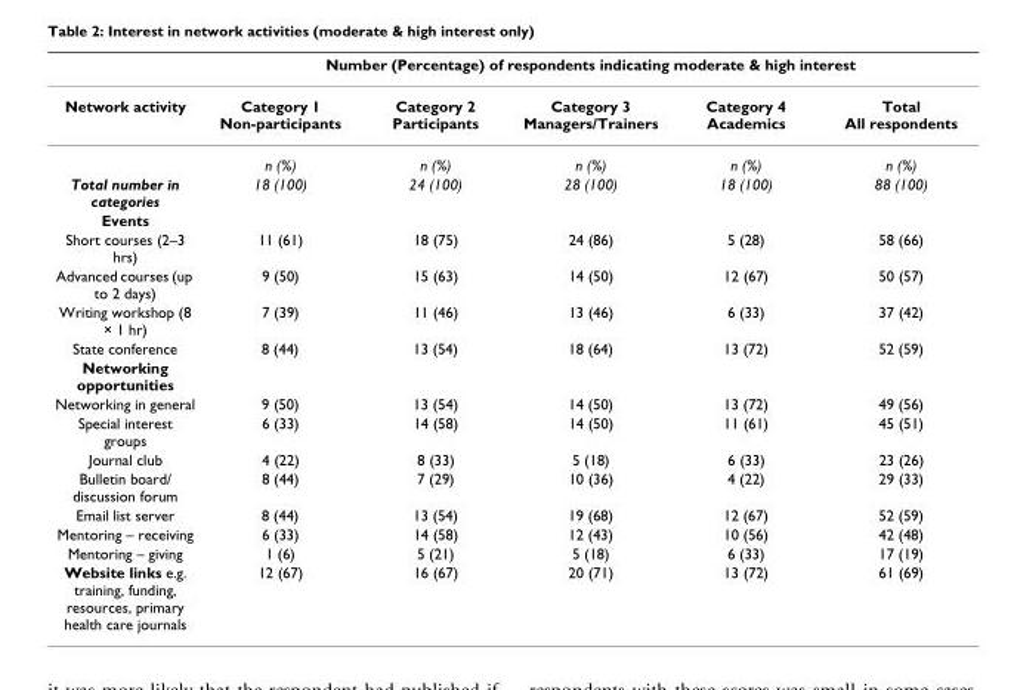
<table><thead><tr><td rowspan="2">Network activity</td><td colspan="5">Number (Percentage) of respondents indicating moderate &amp; high interest</td></tr><tr><td>Category 1 Non-participants</td><td>Category 2 Participants</td><td>Category 3 Managers/Trainers</td><td>Category 4 Academics</td><td>Total All respondents</td></tr></thead><tbody><tr><td></td><td>n (%)</td><td>n (%)</td><td>n (%)</td><td>n (%)</td><td>n (%)</td></tr><tr><td>Total number in categories</td><td>18 (100)</td><td>24 (100)</td><td>28 (100)</td><td>18 (100)</td><td>88 (100)</td></tr><tr><td colspan="6">Events</td></tr><tr><td>Short courses (2–3 hrs)</td><td>11 (61)</td><td>18 (75)</td><td>24 (86)</td><td>5 (28)</td><td>58 (66)</td></tr><tr><td>Advanced courses (up to 2 days)</td><td>9 (50)</td><td>15 (63)</td><td>14 (50)</td><td>12 (67)</td><td>50 (57)</td></tr><tr><td>Writing workshop (8 × 1 hr)</td><td>7 (39)</td><td>11 (46)</td><td>13 (46)</td><td>6 (33)</td><td>37 (42)</td></tr><tr><td>State conference</td><td>8 (44)</td><td>13 (54)</td><td>18 (64)</td><td>13 (72)</td><td>52 (59)</td></tr><tr><td colspan="6">Networking opportunities</td></tr><tr><td>Networking in general</td><td>9 (50)</td><td>13 (54)</td><td>14 (50)</td><td>13 (72)</td><td>49 (56)</td></tr><tr><td>Special interest groups</td><td>6 (33)</td><td>14 (58)</td><td>14 (50)</td><td>11 (61)</td><td>45 (51)</td></tr><tr><td>Journal club</td><td>4 (22)</td><td>8 (33)</td><td>5 (18)</td><td>6 (33)</td><td>23 (26)</td></tr><tr><td>Bulletin board/ discussion forum</td><td>8 (44)</td><td>7 (29)</td><td>10 (36)</td><td>4 (22)</td><td>29 (33)</td></tr><tr><td>Email list server</td><td>8 (44)</td><td>13 (54)</td><td>19 (68)</td><td>12 (67)</td><td>52 (59)</td></tr><tr><td>Mentoring – receiving</td><td>6 (33)</td><td>14 (58)</td><td>12 (43)</td><td>10 (56)</td><td>42 (48)</td></tr><tr><td>Mentoring – giving</td><td>1 (6)</td><td>5 (21)</td><td>5 (18)</td><td>6 (33)</td><td>17 (19)</td></tr><tr><td>Website links e.g. training, funding, resources, primary health care journals</td><td>12 (67)</td><td>16 (67)</td><td>20 (71)</td><td>13 (72)</td><td>61 (69)</td></tr></tbody></table>